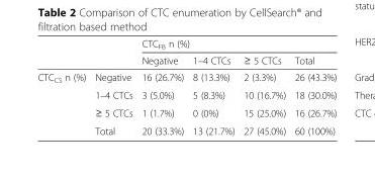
<table><thead><tr><td rowspan="2"></td><td rowspan="2"></td><td colspan="4">CTC<sub>FB</sub> n (%)</td></tr><tr><td>Negative</td><td>1–4 CTCs</td><td>≥ 5 CTCs</td><td>Total</td></tr></thead><tbody><tr><td rowspan="4">CTC<sub>CS</sub> n (%)</td><td>Negative</td><td>16 (26.7%)</td><td>8 (13.3%)</td><td>2 (3.3%)</td><td>26 (43.3%)</td></tr><tr><td>1–4 CTCs</td><td>3 (5.0%)</td><td>5 (8.3%)</td><td>10 (16.7%)</td><td>18 (30.0%)</td></tr><tr><td>≥ 5 CTCs</td><td>1 (1.7%)</td><td>0 (0%)</td><td>15 (25.0%)</td><td>16 (26.7%)</td></tr><tr><td>Total</td><td>20 (33.3%)</td><td>13 (21.7%)</td><td>27 (45.0%)</td><td>60 (100%)</td></tr></tbody></table>